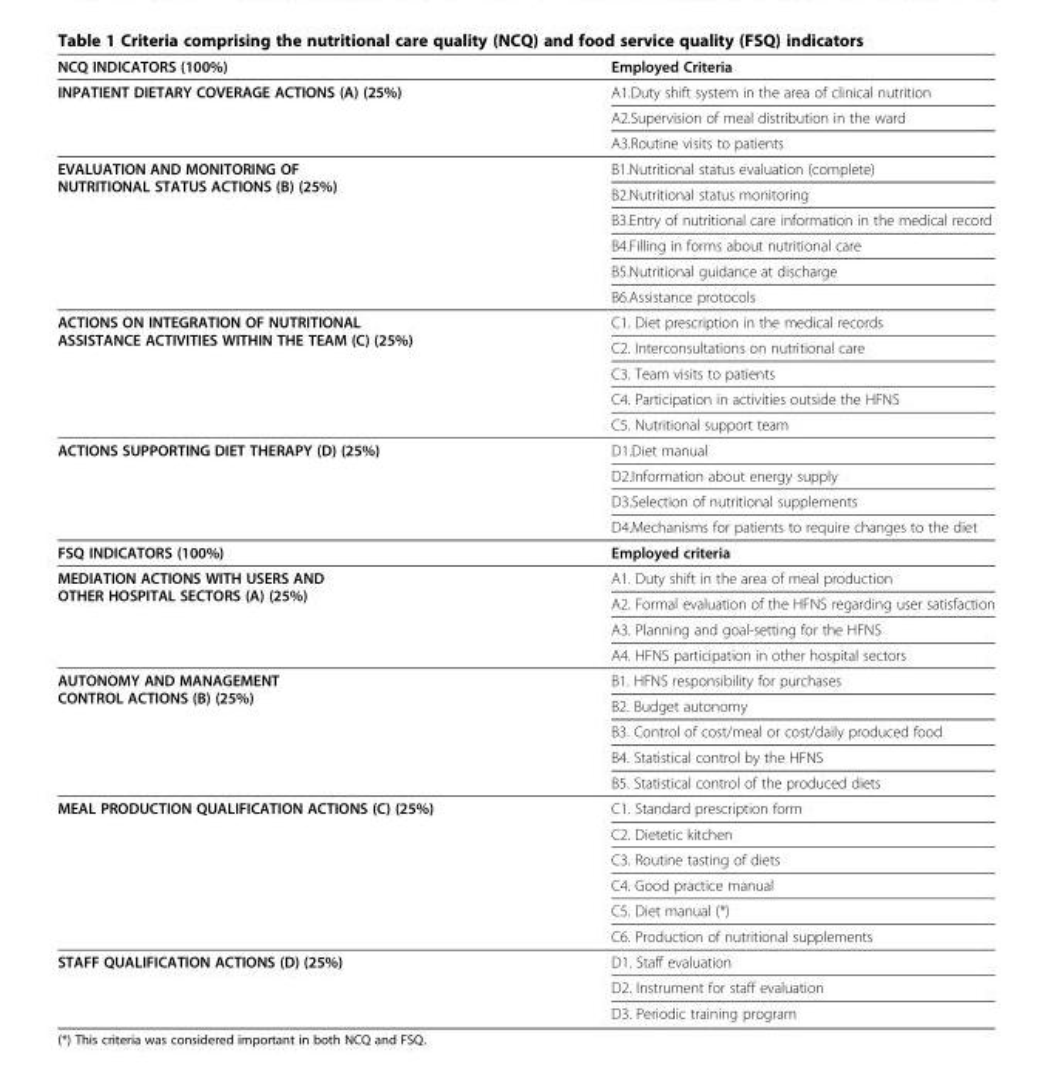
<table><thead><tr><td>NCQ INDICATORS (100%)</td><td>Employed Criteria</td></tr></thead><tbody><tr><td rowspan="3">INPATIENT DIETARY COVERAGE ACTIONS (A) (25%)</td><td>A1.Duty shift system in the area of clinical nutrition</td></tr><tr><td>A2.Supervision of meal distribution in the ward</td></tr><tr><td>A3.Routine visits to patients</td></tr><tr><td rowspan="6">EVALUATION AND MONITORING OF NUTRITIONAL STATUS ACTIONS (B) (25%)</td><td>B1.Nutritional status evaluation (complete)</td></tr><tr><td>B2.Nutritional status monitoring</td></tr><tr><td>B3.Entry of nutritional care information in the medical record</td></tr><tr><td>B4.Filling in forms about nutritional care</td></tr><tr><td>B5.Nutritional guidance at discharge</td></tr><tr><td>B6.Assistance protocols</td></tr><tr><td rowspan="5">ACTIONS ON INTEGRATION OF NUTRITIONAL ASSISTANCE ACTIVITIES WITHIN THE TEAM (C) (25%)</td><td>C1. Diet prescription in the medical records</td></tr><tr><td>C2. Interconsultations on nutritional care</td></tr><tr><td>C3. Team visits to patients</td></tr><tr><td>C4. Participation in activities outside the HFNS</td></tr><tr><td>C5. Nutritional support team</td></tr><tr><td rowspan="4">ACTIONS SUPPORTING DIET THERAPY (D) (25%)</td><td>D1.Diet manual</td></tr><tr><td>D2.Information about energy supply</td></tr><tr><td>D3.Selection of nutritional supplements</td></tr><tr><td>D4.Mechanisms for patients to require changes to the diet</td></tr><tr><td>FSQ INDICATORS (100%)</td><td>Employed criteria</td></tr><tr><td rowspan="4">MEDIATION ACTIONS WITH USERS AND OTHER HOSPITAL SECTORS (A) (25%)</td><td>A1. Duty shift in the area of meal production</td></tr><tr><td>A2. Formal evaluation of the HFNS regarding user satisfaction</td></tr><tr><td>A3. Planning and goal-setting for the HFNS</td></tr><tr><td>A4. HFNS participation in other hospital sectors</td></tr><tr><td rowspan="5">AUTONOMY AND MANAGEMENT CONTROL ACTIONS (B) (25%)</td><td>B1. HFNS responsibility for purchases</td></tr><tr><td>B2. Budget autonomy</td></tr><tr><td>B3. Control of cost/meal or cost/daily produced food</td></tr><tr><td>B4. Statistical control by the HFNS</td></tr><tr><td>B5. Statistical control of the produced diets</td></tr><tr><td rowspan="6">MEAL PRODUCTION QUALIFICATION ACTIONS (C) (25%)</td><td>C1. Standard prescription form</td></tr><tr><td>C2. Dietetic kitchen</td></tr><tr><td>C3. Routine tasting of diets</td></tr><tr><td>C4. Good practice manual</td></tr><tr><td>C5. Diet manual (*)</td></tr><tr><td>C6. Production of nutritional supplements</td></tr><tr><td rowspan="3">STAFF QUALIFICATION ACTIONS (D) (25%)</td><td>D1. Staff evaluation</td></tr><tr><td>D2. Instrument for staff evaluation</td></tr><tr><td>D3. Periodic training program</td></tr></tbody></table>